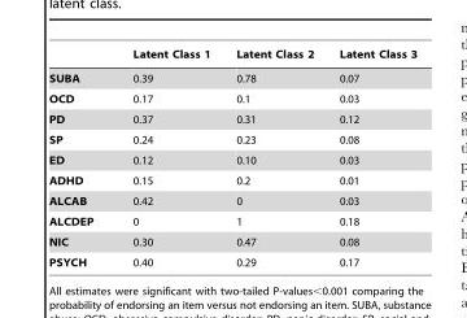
<table><thead><tr><td></td><td>Latent Class 1</td><td>Latent Class 2</td><td>Latent Class 3</td></tr></thead><tbody><tr><td>SUBA</td><td>0.39</td><td>0.78</td><td>0.07</td></tr><tr><td>OCD</td><td>0.17</td><td>0.1</td><td>0.03</td></tr><tr><td>PD</td><td>0.37</td><td>0.31</td><td>0.12</td></tr><tr><td>SP</td><td>0.24</td><td>0.23</td><td>0.08</td></tr><tr><td>ED</td><td>0.12</td><td>0.10</td><td>0.03</td></tr><tr><td>ADHD</td><td>0.15</td><td>0.2</td><td>0.01</td></tr><tr><td>ALCAB</td><td>0.42</td><td>0</td><td>0.03</td></tr><tr><td>ALCDEP</td><td>0</td><td>1</td><td>0.18</td></tr><tr><td>NIC</td><td>0.30</td><td>0.47</td><td>0.08</td></tr><tr><td>PSYCH</td><td>0.40</td><td>0.29</td><td>0.17</td></tr></tbody></table>